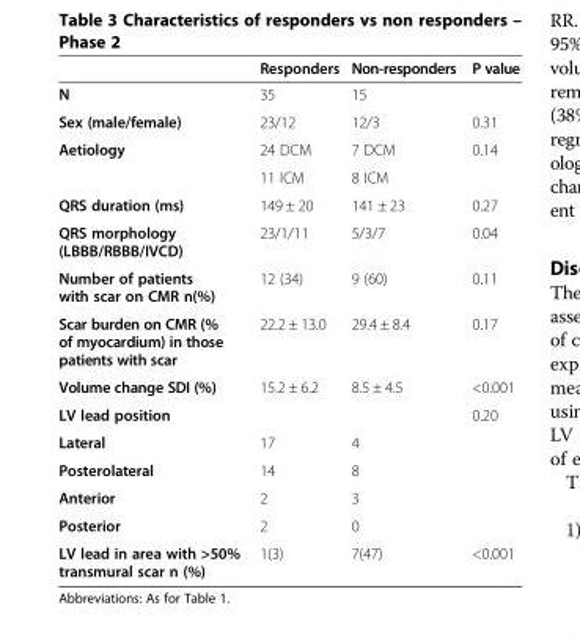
<table><thead><tr><td></td><td>Responders</td><td>Non-responders</td><td>P value</td></tr></thead><tbody><tr><td>N</td><td>35</td><td>15</td><td></td></tr><tr><td>Sex (male/female)</td><td>23/12</td><td>12/3</td><td>0.31</td></tr><tr><td rowspan="2">Aetiology</td><td>24 DCM</td><td>7 DCM</td><td>0.14</td></tr><tr><td>11 ICM</td><td>8 ICM</td><td></td></tr><tr><td>QRS duration (ms)</td><td>149 ± 20</td><td>141 ± 23</td><td>0.27</td></tr><tr><td>QRS morphology (LBBB/RBBB/IVCD)</td><td>23/1/11</td><td>5/3/7</td><td>0.04</td></tr><tr><td>Number of patients with scar on CMR n(%)</td><td>12 (34)</td><td>9 (60)</td><td>0.11</td></tr><tr><td>Scar burden on CMR (% of myocardium) in those patients with scar</td><td>22.2 ± 13.0</td><td>29.4 ± 8.4</td><td>0.17</td></tr><tr><td>Volume change SDI (%)</td><td>15.2 ± 6.2</td><td>8.5 ± 4.5</td><td>&lt;0.001</td></tr><tr><td>LV lead position</td><td></td><td></td><td>0.20</td></tr><tr><td>Lateral</td><td>17</td><td>4</td><td></td></tr><tr><td>Posterolateral</td><td>14</td><td>8</td><td></td></tr><tr><td>Anterior</td><td>2</td><td>3</td><td></td></tr><tr><td>Posterior</td><td>2</td><td>0</td><td></td></tr><tr><td>LV lead in area with &gt;50% transmural scar n (%)</td><td>1(3)</td><td>7(47)</td><td>&lt;0.001</td></tr></tbody></table>